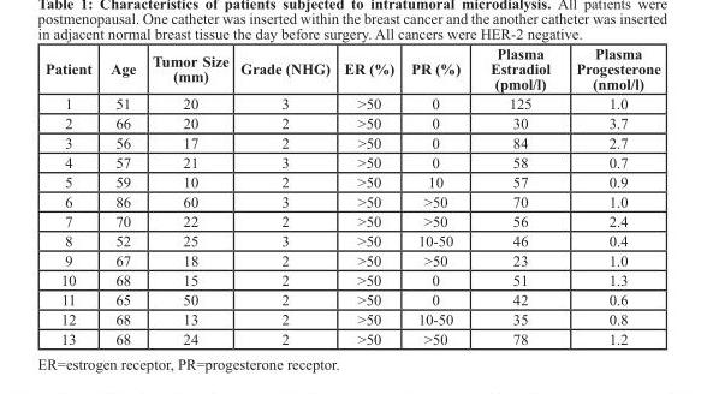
<table><thead><tr><td>Patient</td><td>Age</td><td>Tumor Size (mm)</td><td>Grade (NHG)</td><td>ER (%)</td><td>PR (%)</td><td>Plasma Estradiol (pmol/l)</td><td>Plasma Progesterone (nmol/l)</td></tr></thead><tbody><tr><td>1</td><td>51</td><td>20</td><td>3</td><td>&gt;50</td><td>0</td><td>125</td><td>1.0</td></tr><tr><td>2</td><td>66</td><td>20</td><td>2</td><td>&gt;50</td><td>0</td><td>30</td><td>3.7</td></tr><tr><td>3</td><td>56</td><td>17</td><td>2</td><td>&gt;50</td><td>0</td><td>84</td><td>2.7</td></tr><tr><td>4</td><td>57</td><td>21</td><td>3</td><td>&gt;50</td><td>0</td><td>58</td><td>0.7</td></tr><tr><td>5</td><td>59</td><td>10</td><td>2</td><td>&gt;50</td><td>10</td><td>57</td><td>0.9</td></tr><tr><td>6</td><td>86</td><td>60</td><td>3</td><td>&gt;50</td><td>&gt;50</td><td>70</td><td>1.0</td></tr><tr><td>7</td><td>70</td><td>22</td><td>2</td><td>&gt;50</td><td>&gt;50</td><td>56</td><td>2.4</td></tr><tr><td>8</td><td>52</td><td>25</td><td>3</td><td>&gt;50</td><td>10-50</td><td>46</td><td>0.4</td></tr><tr><td>9</td><td>67</td><td>18</td><td>2</td><td>&gt;50</td><td>&gt;50</td><td>23</td><td>1.0</td></tr><tr><td>10</td><td>68</td><td>15</td><td>2</td><td>&gt;50</td><td>0</td><td>51</td><td>1.3</td></tr><tr><td>11</td><td>65</td><td>50</td><td>2</td><td>&gt;50</td><td>0</td><td>42</td><td>0.6</td></tr><tr><td>12</td><td>68</td><td>13</td><td>2</td><td>&gt;50</td><td>10-50</td><td>35</td><td>0.8</td></tr><tr><td>13</td><td>68</td><td>24</td><td>2</td><td>&gt;50</td><td>&gt;50</td><td>78</td><td>1.2</td></tr></tbody></table>